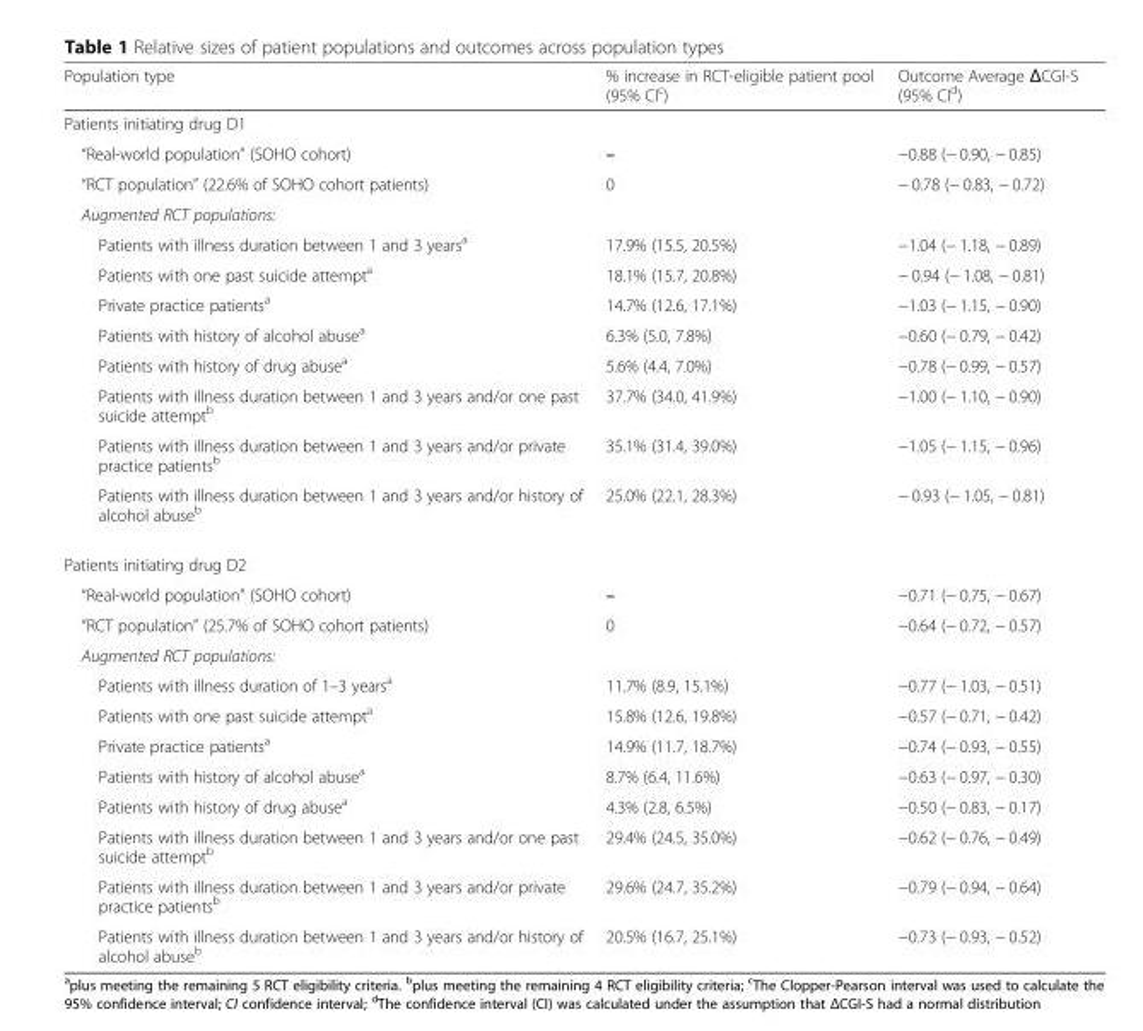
<table><thead><tr><td>Population type</td><td>% increase in RCT-eligible patient pool (95% CI<sup>c</sup>)</td><td>Outcome Average ΔCGI-S (95% CI<sup>d</sup>)</td></tr></thead><tbody><tr><td colspan="3">Patients initiating drug D1</td></tr><tr><td>“Real-world population” (SOHO cohort)</td><td>–</td><td>−0.88 (− 0.90, − 0.85)</td></tr><tr><td>“RCT population” (22.6% of SOHO cohort patients)</td><td>0</td><td>− 0.78 (− 0.83, − 0.72)</td></tr><tr><td colspan="3">Augmented RCT populations:</td></tr><tr><td>Patients with illness duration between 1 and 3 years<sup>a</sup></td><td>17.9% (15.5, 20.5%)</td><td>−1.04 (− 1.18, − 0.89)</td></tr><tr><td>Patients with one past suicide attempt<sup>a</sup></td><td>18.1% (15.7, 20.8%)</td><td>− 0.94 (− 1.08, − 0.81)</td></tr><tr><td>Private practice patients<sup>a</sup></td><td>14.7% (12.6, 17.1%)</td><td>−1.03 (− 1.15, − 0.90)</td></tr><tr><td>Patients with history of alcohol abuse<sup>a</sup></td><td>6.3% (5.0, 7.8%)</td><td>−0.60 (− 0.79, − 0.42)</td></tr><tr><td>Patients with history of drug abuse<sup>a</sup></td><td>5.6% (4.4, 7.0%)</td><td>−0.78 (− 0.99, − 0.57)</td></tr><tr><td>Patients with illness duration between 1 and 3 years and/or one past suicide attempt<sup>b</sup></td><td>37.7% (34.0, 41.9%)</td><td>−1.00 (− 1.10, − 0.90)</td></tr><tr><td>Patients with illness duration between 1 and 3 years and/or private practice patients<sup>b</sup></td><td>35.1% (31.4, 39.0%)</td><td>−1.05 (− 1.15, − 0.96)</td></tr><tr><td>Patients with illness duration between 1 and 3 years and/or history of alcohol abuse<sup>b</sup></td><td>25.0% (22.1, 28.3%)</td><td>− 0.93 (− 1.05, − 0.81)</td></tr><tr><td colspan="3">Patients initiating drug D2</td></tr><tr><td>“Real-world population” (SOHO cohort)</td><td>–</td><td>−0.71 (− 0.75, − 0.67)</td></tr><tr><td>“RCT population” (25.7% of SOHO cohort patients)</td><td>0</td><td>−0.64 (− 0.72, − 0.57)</td></tr><tr><td colspan="3">Augmented RCT populations:</td></tr><tr><td>Patients with illness duration of 1–3 years<sup>a</sup></td><td>11.7% (8.9, 15.1%)</td><td>−0.77 (− 1.03, − 0.51)</td></tr><tr><td>Patients with one past suicide attempt<sup>a</sup></td><td>15.8% (12.6, 19.8%)</td><td>−0.57 (− 0.71, − 0.42)</td></tr><tr><td>Private practice patients<sup>a</sup></td><td>14.9% (11.7, 18.7%)</td><td>−0.74 (− 0.93, − 0.55)</td></tr><tr><td>Patients with history of alcohol abuse<sup>a</sup></td><td>8.7% (6.4, 11.6%)</td><td>−0.63 (− 0.97, − 0.30)</td></tr><tr><td>Patients with history of drug abuse<sup>a</sup></td><td>4.3% (2.8, 6.5%)</td><td>−0.50 (− 0.83, − 0.17)</td></tr><tr><td>Patients with illness duration between 1 and 3 years and/or one past suicide attempt<sup>b</sup></td><td>29.4% (24.5, 35.0%)</td><td>−0.62 (− 0.76, − 0.49)</td></tr><tr><td>Patients with illness duration between 1 and 3 years and/or private practice patients<sup>b</sup></td><td>29.6% (24.7, 35.2%)</td><td>−0.79 (− 0.94, − 0.64)</td></tr><tr><td>Patients with illness duration between 1 and 3 years and/or history of alcohol abuse<sup>b</sup></td><td>20.5% (16.7, 25.1%)</td><td>−0.73 (− 0.93, − 0.52)</td></tr></tbody></table>